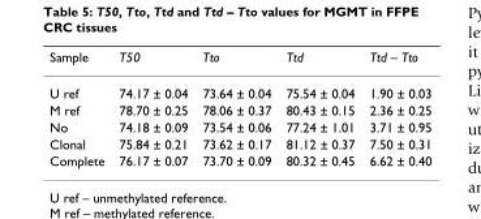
<table><thead><tr><td>Sample</td><td>T50</td><td>Tto</td><td>Ttd</td><td>Ttd – Tto</td></tr></thead><tbody><tr><td>U ref</td><td>74.17 ± 0.04</td><td>73.64 ± 0.04</td><td>75.54 ± 0.04</td><td>1.90 ± 0.03</td></tr><tr><td>M ref</td><td>78.70 ± 0.25</td><td>78.06 ± 0.37</td><td>80.43 ± 0.15</td><td>2.36 ± 0.25</td></tr><tr><td>No</td><td>74.18 ± 0.09</td><td>73.54 ± 0.06</td><td>77.24 ± 1.01</td><td>3.71 ± 0.95</td></tr><tr><td>Clonal</td><td>75.84 ± 0.21</td><td>73.62 ± 0.17</td><td>81.12 ± 0.37</td><td>7.50 ± 0.31</td></tr><tr><td>Complete</td><td>76.17 ± 0.07</td><td>73.70 ± 0.09</td><td>80.32 ± 0.45</td><td>6.62 ± 0.40</td></tr></tbody></table>